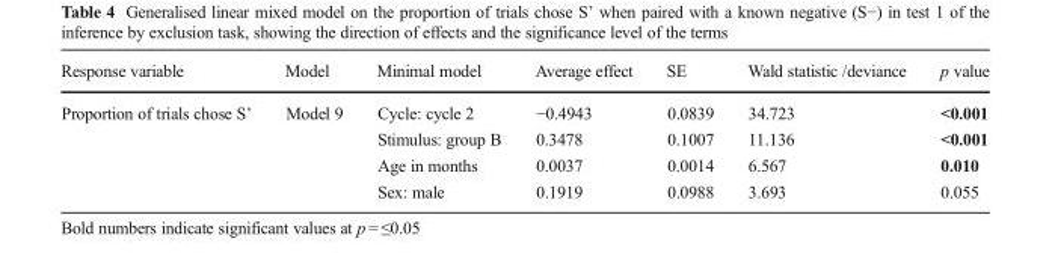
<table><thead><tr><td>Response variable</td><td>Model</td><td>Minimal model</td><td>Average effect</td><td>SE</td><td>Wald statistic /deviance</td><td>p value</td></tr></thead><tbody><tr><td rowspan="4">Proportion of trials chose S’</td><td rowspan="4">Model 9</td><td>Cycle: cycle 2</td><td>−0.4943</td><td>0.0839</td><td>34.723</td><td>&lt;0.001</td></tr><tr><td>Stimulus: group B</td><td>0.3478</td><td>0.1007</td><td>11.136</td><td>&lt;0.001</td></tr><tr><td>Age in months</td><td>0.0037</td><td>0.0014</td><td>6.567</td><td>0.010</td></tr><tr><td>Sex: male</td><td>0.1919</td><td>0.0988</td><td>3.693</td><td>0.055</td></tr></tbody></table>